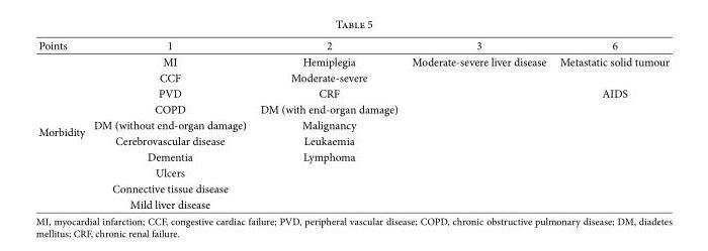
<table><thead><tr><td>Points</td><td>1</td><td>2</td><td>3</td><td>6</td></tr></thead><tbody><tr><td rowspan="10">Morbidity</td><td>MI</td><td>Hemiplegia</td><td>Moderate-severe liver disease</td><td>Metastatic solid tumour</td></tr><tr><td>CCF</td><td>Moderate-severe</td><td></td><td></td></tr><tr><td>PVD</td><td>CRF</td><td></td><td>AIDS</td></tr><tr><td>COPD</td><td>DM (with end-organ damage)</td><td></td><td></td></tr><tr><td>DM (without end-organ damage)</td><td>Malignancy</td><td></td><td></td></tr><tr><td>Cerebrovascular disease</td><td>Leukaemia</td><td></td><td></td></tr><tr><td>Dementia</td><td>Lymphoma</td><td></td><td></td></tr><tr><td>Ulcers</td><td></td><td></td><td></td></tr><tr><td>Connective tissue disease</td><td></td><td></td><td></td></tr><tr><td>Mild liver disease</td><td></td><td></td><td></td></tr></tbody></table>